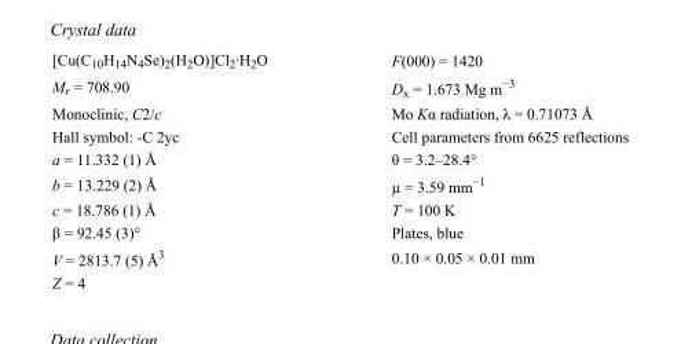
<table><tbody><tr><td>[Cu(C<sub>10</sub>H<sub>14</sub>N<sub>4</sub>Se)<sub>2</sub>(H<sub>2</sub>O)]Cl<sub>2</sub>·H<sub>2</sub>O</td><td>F(000) = 1420</td></tr><tr><td>M<sub>r</sub> = 708.90</td><td>D<sub>x</sub> = 1.673 Mg m<sup>−3</sup></td></tr><tr><td>Monoclinic, C2/c</td><td>Mo Kα radiation, λ = 0.71073 Å</td></tr><tr><td>Hall symbol: -C 2yc</td><td>Cell parameters from 6625 reflections</td></tr><tr><td>a = 11.332 (1) Å</td><td>θ = 3.2–28.4°</td></tr><tr><td>b = 13.229 (2) Å</td><td>µ = 3.59 mm<sup>−1</sup></td></tr><tr><td>c = 18.786 (1) Å</td><td>T = 100 K</td></tr><tr><td>β = 92.45 (3)°</td><td>Plates, blue</td></tr><tr><td>V = 2813.7 (5) Å<sup>3</sup></td><td>0.10 × 0.05 × 0.01 mm</td></tr><tr><td>Z = 4</td><td></td></tr></tbody></table>